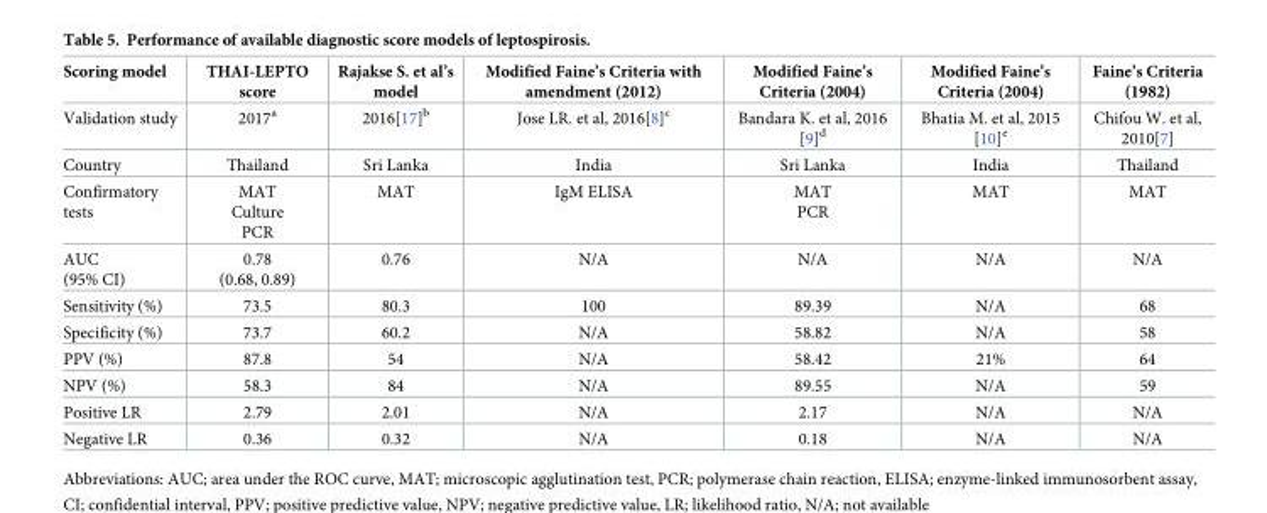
<table><thead><tr><td>Scoring model</td><td>THAI-LEPTO score</td><td>Rajakse S. et al’s model</td><td>Modified Faine’s Criteria with amendment (2012)</td><td>Modified Faine’s Criteria (2004)</td><td>Modified Faine’s Criteria (2004)</td><td>Faine’s Criteria (1982)</td></tr></thead><tbody><tr><td>Validation study</td><td>2017<sup>a</sup></td><td>2016[17]<sup>b</sup></td><td>Jose LR. et al, 2016[8]<sup>c</sup></td><td>Bandara K. et al, 2016 [9]<sup>d</sup></td><td>Bhatia M. et al, 2015 [10]<sup>e</sup></td><td>Chifou W. et al, 2010[7]</td></tr><tr><td>Country</td><td>Thailand</td><td>Sri Lanka</td><td>India</td><td>Sri Lanka</td><td>India</td><td>Thailand</td></tr><tr><td>Confirmatory tests</td><td>MAT Culture PCR</td><td>MAT</td><td>IgM ELISA</td><td>MAT PCR</td><td>MAT</td><td>MAT</td></tr><tr><td>AUC (95% CI)</td><td>0.78 (0.68, 0.89)</td><td>0.76</td><td>N/A</td><td>N/A</td><td>N/A</td><td>N/A</td></tr><tr><td>Sensitivity (%)</td><td>73.5</td><td>80.3</td><td>100</td><td>89.39</td><td>N/A</td><td>68</td></tr><tr><td>Specificity (%)</td><td>73.7</td><td>60.2</td><td>N/A</td><td>58.82</td><td>N/A</td><td>58</td></tr><tr><td>PPV (%)</td><td>87.8</td><td>54</td><td>N/A</td><td>58.42</td><td>21%</td><td>64</td></tr><tr><td>NPV (%)</td><td>58.3</td><td>84</td><td>N/A</td><td>89.55</td><td>N/A</td><td>59</td></tr><tr><td>Positive LR</td><td>2.79</td><td>2.01</td><td>N/A</td><td>2.17</td><td>N/A</td><td>N/A</td></tr><tr><td>Negative LR</td><td>0.36</td><td>0.32</td><td>N/A</td><td>0.18</td><td>N/A</td><td>N/A</td></tr></tbody></table>